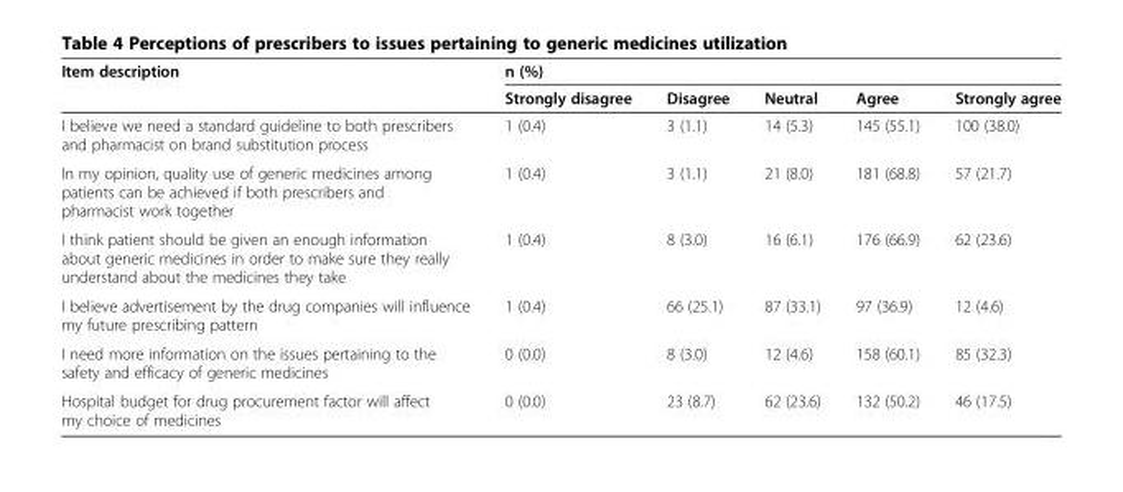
<table><thead><tr><td rowspan="2">Item description</td><td colspan="5">n (%)</td></tr><tr><td>Strongly disagree</td><td>Disagree</td><td>Neutral</td><td>Agree</td><td>Strongly agree</td></tr></thead><tbody><tr><td>I believe we need a standard guideline to both prescribers and pharmacist on brand substitution process</td><td>1 (0.4)</td><td>3 (1.1)</td><td>14 (5.3)</td><td>145 (55.1)</td><td>100 (38.0)</td></tr><tr><td>In my opinion, quality use of generic medicines among patients can be achieved if both prescribers and pharmacist work together</td><td>1 (0.4)</td><td>3 (1.1)</td><td>21 (8.0)</td><td>181 (68.8)</td><td>57 (21.7)</td></tr><tr><td>I think patient should be given an enough information about generic medicines in order to make sure they really understand about the medicines they take</td><td>1 (0.4)</td><td>8 (3.0)</td><td>16 (6.1)</td><td>176 (66.9)</td><td>62 (23.6)</td></tr><tr><td>I believe advertisement by the drug companies will influence my future prescribing pattern</td><td>1 (0.4)</td><td>66 (25.1)</td><td>87 (33.1)</td><td>97 (36.9)</td><td>12 (4.6)</td></tr><tr><td>I need more information on the issues pertaining to the safety and efficacy of generic medicines</td><td>0 (0.0)</td><td>8 (3.0)</td><td>12 (4.6)</td><td>158 (60.1)</td><td>85 (32.3)</td></tr><tr><td>Hospital budget for drug procurement factor will affect my choice of medicines</td><td>0 (0.0)</td><td>23 (8.7)</td><td>62 (23.6)</td><td>132 (50.2)</td><td>46 (17.5)</td></tr></tbody></table>